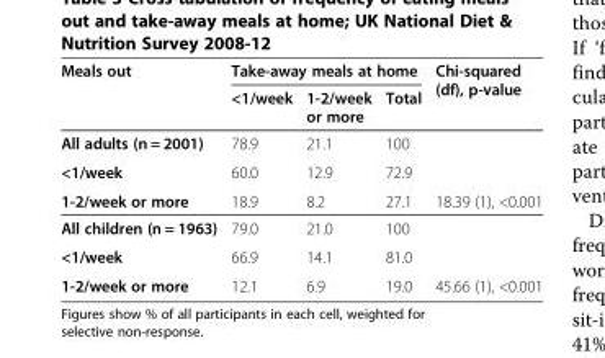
<table><thead><tr><td rowspan="2">Meals out</td><td colspan="3">Take-away meals at home</td><td rowspan="2">Chi-squared (df), p-value</td></tr><tr><td>&lt;1/week</td><td>1-2/week or more</td><td>Total</td></tr></thead><tbody><tr><td>All adults (n = 2001)</td><td>78.9</td><td>21.1</td><td>100</td><td></td></tr><tr><td>&lt;1/week</td><td>60.0</td><td>12.9</td><td>72.9</td><td></td></tr><tr><td>1-2/week or more</td><td>18.9</td><td>8.2</td><td>27.1</td><td>18.39 (1), &lt;0.001</td></tr><tr><td>All children (n = 1963)</td><td>79.0</td><td>21.0</td><td>100</td><td></td></tr><tr><td>&lt;1/week</td><td>66.9</td><td>14.1</td><td>81.0</td><td></td></tr><tr><td>1-2/week or more</td><td>12.1</td><td>6.9</td><td>19.0</td><td>45.66 (1), &lt;0.001</td></tr></tbody></table>